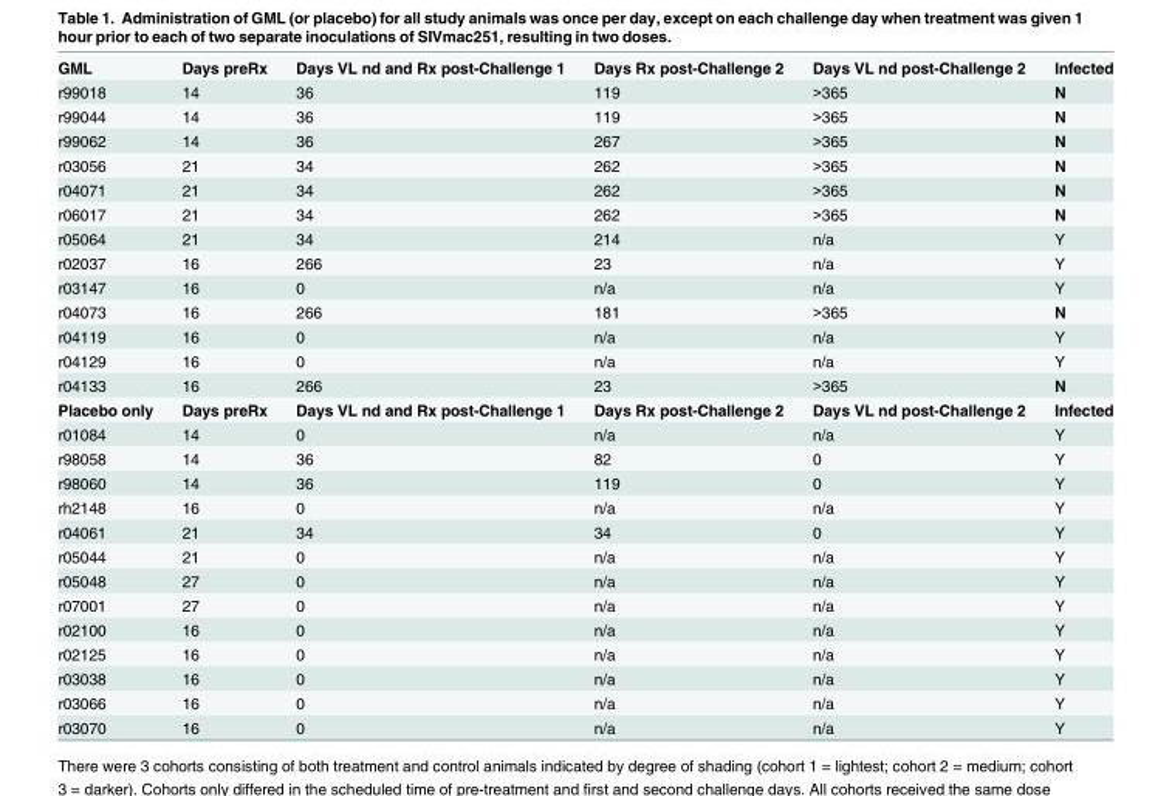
<table><tbody><tr><td>GML</td><td>Days preRx</td><td>Days VL nd and Rx post-Challenge 1</td><td>Days Rx post-Challenge 2</td><td>Days VL nd post-Challenge 2</td><td>Infected</td></tr><tr><td>r99018</td><td>14</td><td>36</td><td>119</td><td>&gt;365</td><td>N</td></tr><tr><td>r99044</td><td>14</td><td>36</td><td>119</td><td>&gt;365</td><td>N</td></tr><tr><td>r99062</td><td>14</td><td>36</td><td>267</td><td>&gt;365</td><td>N</td></tr><tr><td>r03056</td><td>21</td><td>34</td><td>262</td><td>&gt;365</td><td>N</td></tr><tr><td>r04071</td><td>21</td><td>34</td><td>262</td><td>&gt;365</td><td>N</td></tr><tr><td>r06017</td><td>21</td><td>34</td><td>262</td><td>&gt;365</td><td>N</td></tr><tr><td>r05064</td><td>21</td><td>34</td><td>214</td><td>n/a</td><td>Y</td></tr><tr><td>r02037</td><td>16</td><td>266</td><td>23</td><td>n/a</td><td>Y</td></tr><tr><td>r03147</td><td>16</td><td>0</td><td>n/a</td><td>n/a</td><td>Y</td></tr><tr><td>r04073</td><td>16</td><td>266</td><td>181</td><td>&gt;365</td><td>N</td></tr><tr><td>r04119</td><td>16</td><td>0</td><td>n/a</td><td>n/a</td><td>Y</td></tr><tr><td>r04129</td><td>16</td><td>0</td><td>n/a</td><td>n/a</td><td>Y</td></tr><tr><td>r04133</td><td>16</td><td>266</td><td>23</td><td>&gt;365</td><td>N</td></tr><tr><td>Placebo only</td><td>Days preRx</td><td>Days VL nd and Rx post-Challenge 1</td><td>Days Rx post-Challenge 2</td><td>Days VL nd post-Challenge 2</td><td>Infected</td></tr><tr><td>r01084</td><td>14</td><td>0</td><td>n/a</td><td>n/a</td><td>Y</td></tr><tr><td>r98058</td><td>14</td><td>36</td><td>82</td><td>0</td><td>Y</td></tr><tr><td>r98060</td><td>14</td><td>36</td><td>119</td><td>0</td><td>Y</td></tr><tr><td>rh2148</td><td>16</td><td>0</td><td>n/a</td><td>n/a</td><td>Y</td></tr><tr><td>r04061</td><td>21</td><td>34</td><td>34</td><td>0</td><td>Y</td></tr><tr><td>r05044</td><td>21</td><td>0</td><td>n/a</td><td>n/a</td><td>Y</td></tr><tr><td>r05048</td><td>27</td><td>0</td><td>n/a</td><td>n/a</td><td>Y</td></tr><tr><td>r07001</td><td>27</td><td>0</td><td>n/a</td><td>n/a</td><td>Y</td></tr><tr><td>r02100</td><td>16</td><td>0</td><td>n/a</td><td>n/a</td><td>Y</td></tr><tr><td>r02125</td><td>16</td><td>0</td><td>n/a</td><td>n/a</td><td>Y</td></tr><tr><td>r03038</td><td>16</td><td>0</td><td>n/a</td><td>n/a</td><td>Y</td></tr><tr><td>r03066</td><td>16</td><td>0</td><td>n/a</td><td>n/a</td><td>Y</td></tr><tr><td>r03070</td><td>16</td><td>0</td><td>n/a</td><td>n/a</td><td>Y</td></tr></tbody></table>